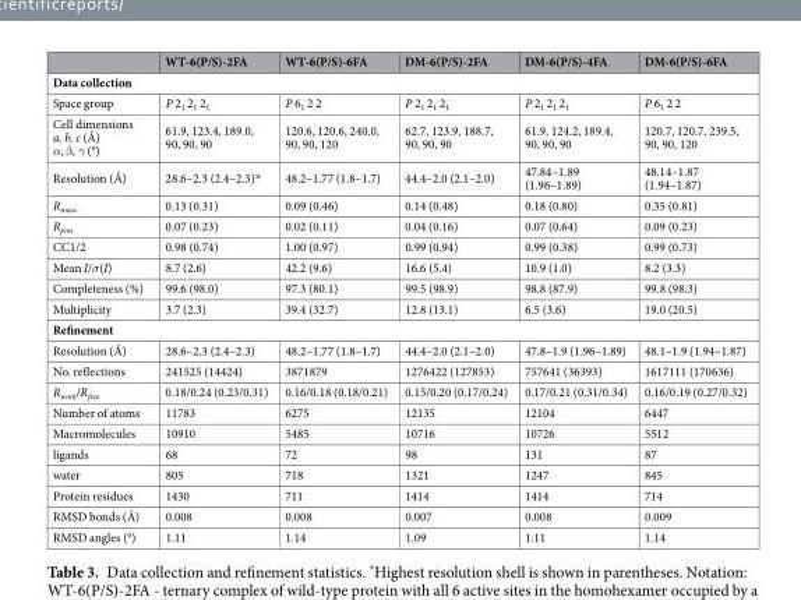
<table><thead><tr><td></td><td>WT-6(P/S)-2FA</td><td>WT-6(P/S)-6FA</td><td>DM-6(P/S)-2FA</td><td>DM-6(P/S)-4FA</td><td>DM-6(P/S)-6FA</td></tr></thead><tbody><tr><td colspan="6">Data collection</td></tr><tr><td>Space group</td><td>P 2<sub>1</sub> 2<sub>1</sub> 2<sub>1</sub></td><td>P 6<sub>1</sub> 2 2</td><td>P 2<sub>1</sub> 2<sub>1</sub> 2<sub>1</sub></td><td>P 2<sub>1</sub> 2<sub>1</sub> 2<sub>1</sub></td><td>P 6<sub>1</sub> 2 2</td></tr><tr><td>Cell dimensions a, b, c (Å) α, β, γ (°)</td><td>61.9, 123.4, 189.0, 90, 90, 90</td><td>120.6, 120.6, 240.0, 90, 90, 120</td><td>62.7, 123.9, 188.7, 90, 90, 90</td><td>61.9, 124.2, 189.4, 90, 90, 90</td><td>120.7, 120.7, 239.5, 90, 90, 120</td></tr><tr><td>Resolution (Å)</td><td>28.6–2.3 (2.4–2.3)*</td><td>48.2–1.77 (1.8–1.7)</td><td>44.4–2.0 (2.1–2.0)</td><td>47.84–1.89 (1.96–1.89)</td><td>48.14–1.87 (1.94–1.87)</td></tr><tr><td>R<sub>meas</sub></td><td>0.13 (0.31)</td><td>0.09 (0.46)</td><td>0.14 (0.48)</td><td>0.18 (0.80)</td><td>0.35 (0.81)</td></tr><tr><td>R<sub>pim</sub></td><td>0.07 (0.23)</td><td>0.02 (0.11)</td><td>0.04 (0.16)</td><td>0.07 (0.64)</td><td>0.09 (0.23)</td></tr><tr><td>CC1/2</td><td>0.98 (0.74)</td><td>1.00 (0.97)</td><td>0.99 (0.94)</td><td>0.99 (0.38)</td><td>0.99 (0.73)</td></tr><tr><td>Mean I/σ(I)</td><td>8.7 (2.6)</td><td>42.2 (9.6)</td><td>16.6 (5.4)</td><td>10.9 (1.0)</td><td>8.2 (3.3)</td></tr><tr><td>Completeness (%)</td><td>99.6 (98.0)</td><td>97.3 (80.1)</td><td>99.5 (98.9)</td><td>98.8 (87.9)</td><td>99.8 (98.3)</td></tr><tr><td>Multiplicity</td><td>3.7 (2.3)</td><td>39.4 (32.7)</td><td>12.8 (13.1)</td><td>6.5 (3.6)</td><td>19.0 (20.5)</td></tr><tr><td colspan="6">Refinement</td></tr><tr><td>Resolution (Å)</td><td>28.6–2.3 (2.4–2.3)</td><td>48.2–1.77 (1.8–1.7)</td><td>44.4–2.0 (2.1–2.0)</td><td>47.8–1.9 (1.96–1.89)</td><td>48.1–1.9 (1.94–1.87)</td></tr><tr><td>No. reflections</td><td>241525 (14424)</td><td>3871879</td><td>1276422 (127853)</td><td>757641 (36393)</td><td>1617111 (170636)</td></tr><tr><td>R<sub>work</sub>/R<sub>free</sub></td><td>0.18/0.24 (0.23/0.31)</td><td>0.16/0.18 (0.18/0.21)</td><td>0.15/0.20 (0.17/0.24)</td><td>0.17/0.21 (0.31/0.34)</td><td>0.16/0.19 (0.27/0.32)</td></tr><tr><td>Number of atoms</td><td>11783</td><td>6275</td><td>12135</td><td>12104</td><td>6447</td></tr><tr><td>Macromolecules</td><td>10910</td><td>5485</td><td>10716</td><td>10726</td><td>5512</td></tr><tr><td>ligands</td><td>68</td><td>72</td><td>98</td><td>131</td><td>87</td></tr><tr><td>water</td><td>805</td><td>718</td><td>1321</td><td>1247</td><td>845</td></tr><tr><td>Protein residues</td><td>1430</td><td>711</td><td>1414</td><td>1414</td><td>714</td></tr><tr><td>RMSD bonds (Å)</td><td>0.008</td><td>0.008</td><td>0.007</td><td>0.008</td><td>0.009</td></tr><tr><td>RMSD angles (°)</td><td>1.11</td><td>1.14</td><td>1.09</td><td>1.11</td><td>1.14</td></tr></tbody></table>